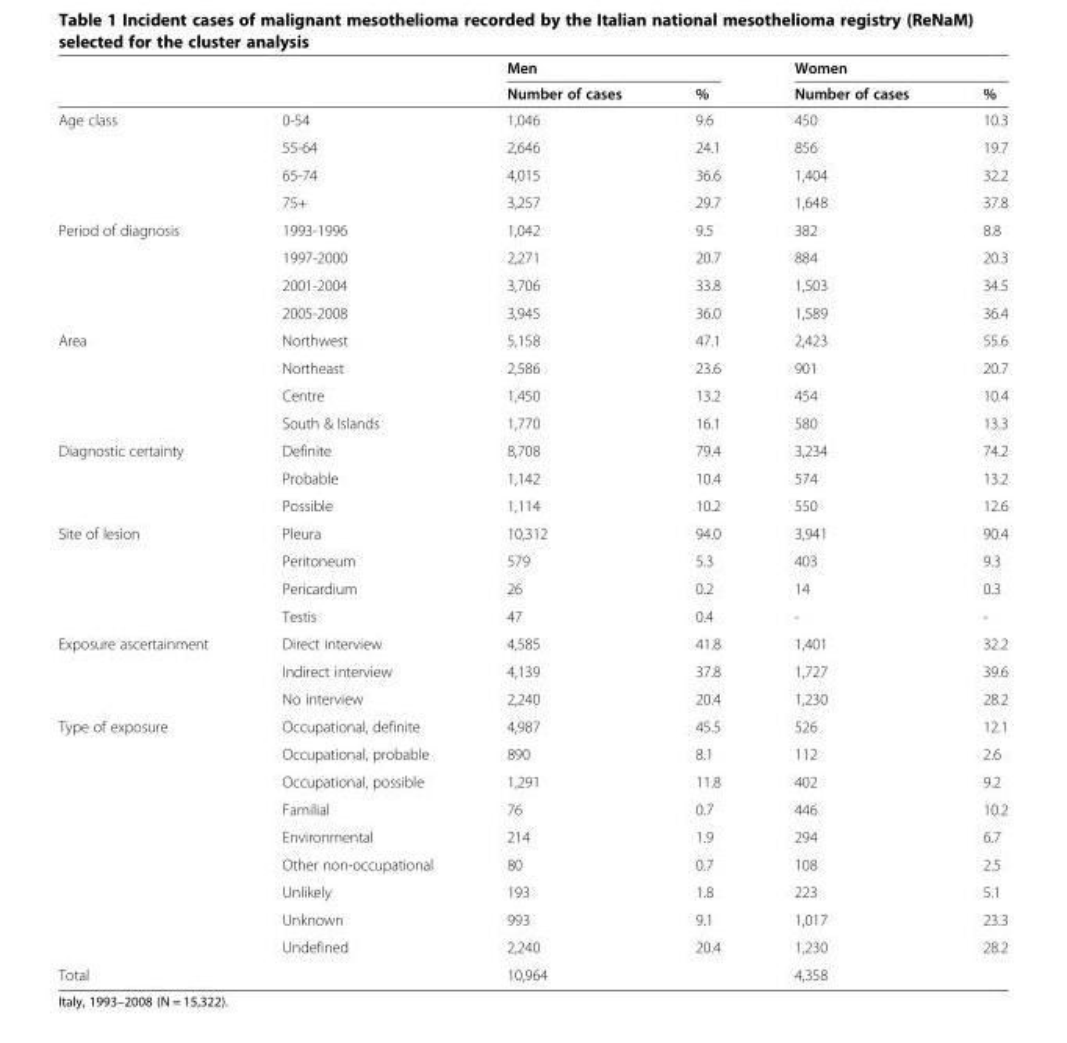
<table><thead><tr><td rowspan="2"></td><td rowspan="2"></td><td colspan="2">Men</td><td colspan="2">Women</td></tr><tr><td>Number of cases</td><td>%</td><td>Number of cases</td><td>%</td></tr></thead><tbody><tr><td rowspan="4">Age class</td><td>0-54</td><td>1,046</td><td>9.6</td><td>450</td><td>10.3</td></tr><tr><td>55-64</td><td>2,646</td><td>24.1</td><td>856</td><td>19.7</td></tr><tr><td>65-74</td><td>4,015</td><td>36.6</td><td>1,404</td><td>32.2</td></tr><tr><td>75+</td><td>3,257</td><td>29.7</td><td>1,648</td><td>37.8</td></tr><tr><td rowspan="4">Period of diagnosis</td><td>1993-1996</td><td>1,042</td><td>9.5</td><td>382</td><td>8.8</td></tr><tr><td>1997-2000</td><td>2,271</td><td>20.7</td><td>884</td><td>20.3</td></tr><tr><td>2001-2004</td><td>3,706</td><td>33.8</td><td>1,503</td><td>34.5</td></tr><tr><td>2005-2008</td><td>3,945</td><td>36.0</td><td>1,589</td><td>36.4</td></tr><tr><td rowspan="4">Area</td><td>Northwest</td><td>5,158</td><td>47.1</td><td>2,423</td><td>55.6</td></tr><tr><td>Northeast</td><td>2,586</td><td>23.6</td><td>901</td><td>20.7</td></tr><tr><td>Centre</td><td>1,450</td><td>13.2</td><td>454</td><td>10.4</td></tr><tr><td>South &amp; Islands</td><td>1,770</td><td>16.1</td><td>580</td><td>13.3</td></tr><tr><td rowspan="3">Diagnostic certainty</td><td>Definite</td><td>8,708</td><td>79.4</td><td>3,234</td><td>74.2</td></tr><tr><td>Probable</td><td>1,142</td><td>10.4</td><td>574</td><td>13.2</td></tr><tr><td>Possible</td><td>1,114</td><td>10.2</td><td>550</td><td>12.6</td></tr><tr><td rowspan="4">Site of lesion</td><td>Pleura</td><td>10,312</td><td>94.0</td><td>3,941</td><td>90.4</td></tr><tr><td>Peritoneum</td><td>579</td><td>5.3</td><td>403</td><td>9.3</td></tr><tr><td>Pericardium</td><td>26</td><td>0.2</td><td>14</td><td>0.3</td></tr><tr><td>Testis</td><td>47</td><td>0.4</td><td>-</td><td>-</td></tr><tr><td rowspan="3">Exposure ascertainment</td><td>Direct interview</td><td>4,585</td><td>41.8</td><td>1,401</td><td>32.2</td></tr><tr><td>Indirect interview</td><td>4,139</td><td>37.8</td><td>1,727</td><td>39.6</td></tr><tr><td>No interview</td><td>2,240</td><td>20.4</td><td>1,230</td><td>28.2</td></tr><tr><td rowspan="9">Type of exposure</td><td>Occupational, definite</td><td>4,987</td><td>45.5</td><td>526</td><td>12.1</td></tr><tr><td>Occupational, probable</td><td>890</td><td>8.1</td><td>112</td><td>2.6</td></tr><tr><td>Occupational, possible</td><td>1,291</td><td>11.8</td><td>402</td><td>9.2</td></tr><tr><td>Familial</td><td>76</td><td>0.7</td><td>446</td><td>10.2</td></tr><tr><td>Environmental</td><td>214</td><td>1.9</td><td>294</td><td>6.7</td></tr><tr><td>Other non-occupational</td><td>80</td><td>0.7</td><td>108</td><td>2.5</td></tr><tr><td>Unlikely</td><td>193</td><td>1.8</td><td>223</td><td>5.1</td></tr><tr><td>Unknown</td><td>993</td><td>9.1</td><td>1,017</td><td>23.3</td></tr><tr><td>Undefined</td><td>2,240</td><td>20.4</td><td>1,230</td><td>28.2</td></tr><tr><td>Total</td><td></td><td>10,964</td><td></td><td>4,358</td><td></td></tr></tbody></table>